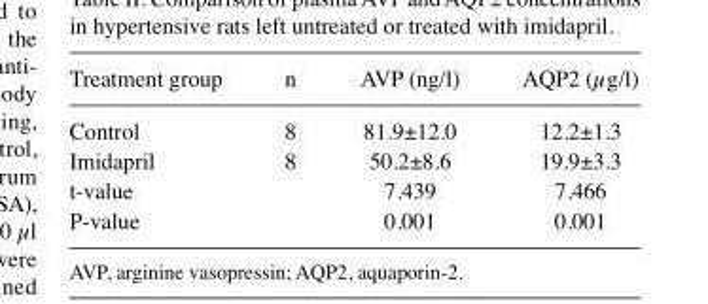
<table><thead><tr><td>Treatment group</td><td>n</td><td>AVP (ng/l)</td><td>AQP2 (µg/l)</td></tr></thead><tbody><tr><td>Control</td><td>8</td><td>81.9±12.0</td><td>12.2±1.3</td></tr><tr><td>Imidapril</td><td>8</td><td>50.2±8.6</td><td>19.9±3.3</td></tr><tr><td>t-value</td><td></td><td>7.439</td><td>7.466</td></tr><tr><td>P-value</td><td></td><td>0.001</td><td>0.001</td></tr></tbody></table>